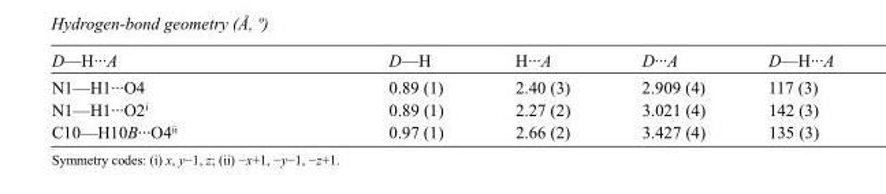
<table><tbody><tr><td>D—H···A</td><td>D—H</td><td>H···A</td><td>D···A</td><td>D—H···A</td></tr><tr><td>N1—H1···O4</td><td>0.89 (1)</td><td>2.40 (3)</td><td>2.909 (4)</td><td>117 (3)</td></tr><tr><td>N1—H1···O2<sup>i</sup></td><td>0.89 (1)</td><td>2.27 (2)</td><td>3.021 (4)</td><td>142 (3)</td></tr><tr><td>C10—H10B···O4<sup>ii</sup></td><td>0.97 (1)</td><td>2.66 (2)</td><td>3.427 (4)</td><td>135 (3)</td></tr></tbody></table>